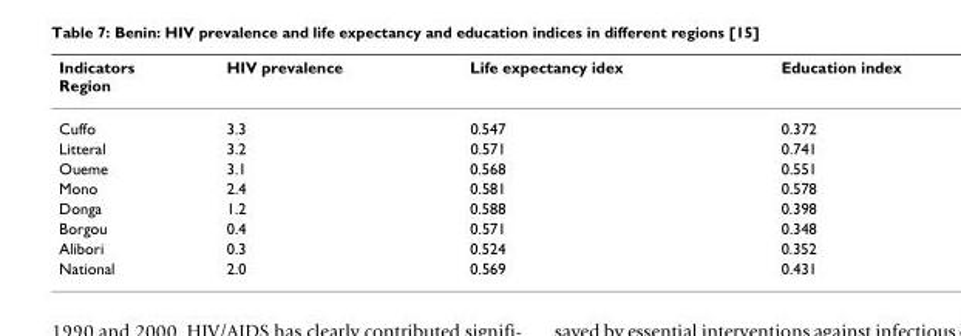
<table><thead><tr><td>Indicators Region</td><td>HIV prevalence</td><td>Life expectancy idex</td><td>Education index</td></tr></thead><tbody><tr><td>Cuffo</td><td>3.3</td><td>0.547</td><td>0.372</td></tr><tr><td>Litteral</td><td>3.2</td><td>0.571</td><td>0.741</td></tr><tr><td>Oueme</td><td>3.1</td><td>0.568</td><td>0.551</td></tr><tr><td>Mono</td><td>2.4</td><td>0.581</td><td>0.578</td></tr><tr><td>Donga</td><td>1.2</td><td>0.588</td><td>0.398</td></tr><tr><td>Borgou</td><td>0.4</td><td>0.571</td><td>0.348</td></tr><tr><td>Alibori</td><td>0.3</td><td>0.524</td><td>0.352</td></tr><tr><td>National</td><td>2.0</td><td>0.569</td><td>0.431</td></tr></tbody></table>